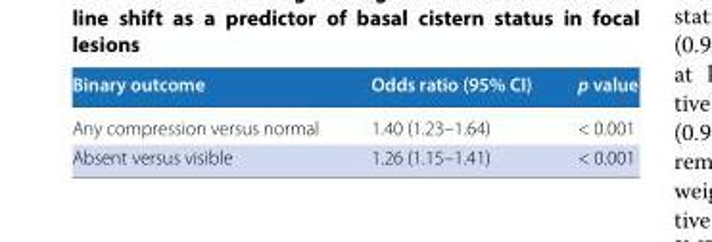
<table><thead><tr><td>Binary outcome</td><td>Odds ratio (95% CI)</td><td>p value</td></tr></thead><tbody><tr><td>Any compression versus normal</td><td>1.40 (1.23–1.64)</td><td>&lt; 0.001</td></tr><tr><td>Absent versus visible</td><td>1.26 (1.15–1.41)</td><td>&lt; 0.001</td></tr></tbody></table>